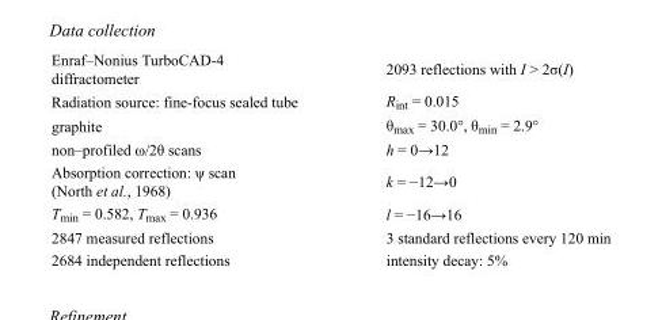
<table><tbody><tr><td>Enraf–Nonius TurboCAD-4 diffractometer</td><td>2093 reflections with I &gt; 2σ(I)</td></tr><tr><td>Radiation source: fine-focus sealed tube</td><td>R<sub>int</sub> = 0.015</td></tr><tr><td>graphite</td><td>θ<sub>max</sub> = 30.0°, θ<sub>min</sub> = 2.9°</td></tr><tr><td>non–profiled ω/2θ scans</td><td>h = 0→12</td></tr><tr><td>Absorption correction: ψ scan (North et al., 1968)</td><td>k = −12→0</td></tr><tr><td>T<sub>min</sub> = 0.582, T<sub>max</sub> = 0.936</td><td>l = −16→16</td></tr><tr><td>2847 measured reflections</td><td>3 standard reflections every 120 min</td></tr><tr><td>2684 independent reflections</td><td>intensity decay: 5%</td></tr></tbody></table>